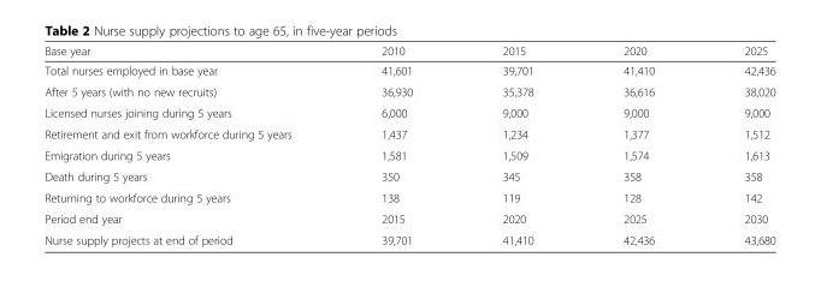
<table><thead><tr><td>Base year</td><td>2010</td><td>2015</td><td>2020</td><td>2025</td></tr></thead><tbody><tr><td>Total nurses employed in base year</td><td>41,601</td><td>39,701</td><td>41,410</td><td>42,436</td></tr><tr><td>After 5 years (with no new recruits)</td><td>36,930</td><td>35,378</td><td>36,616</td><td>38,020</td></tr><tr><td>Licensed nurses joining during 5 years</td><td>6,000</td><td>9,000</td><td>9,000</td><td>9,000</td></tr><tr><td>Retirement and exit from workforce during 5 years</td><td>1,437</td><td>1,234</td><td>1,377</td><td>1,512</td></tr><tr><td>Emigration during 5 years</td><td>1,581</td><td>1,509</td><td>1,574</td><td>1,613</td></tr><tr><td>Death during 5 years</td><td>350</td><td>345</td><td>358</td><td>358</td></tr><tr><td>Returning to workforce during 5 years</td><td>138</td><td>119</td><td>128</td><td>142</td></tr><tr><td>Period end year</td><td>2015</td><td>2020</td><td>2025</td><td>2030</td></tr><tr><td>Nurse supply projects at end of period</td><td>39,701</td><td>41,410</td><td>42,436</td><td>43,680</td></tr></tbody></table>